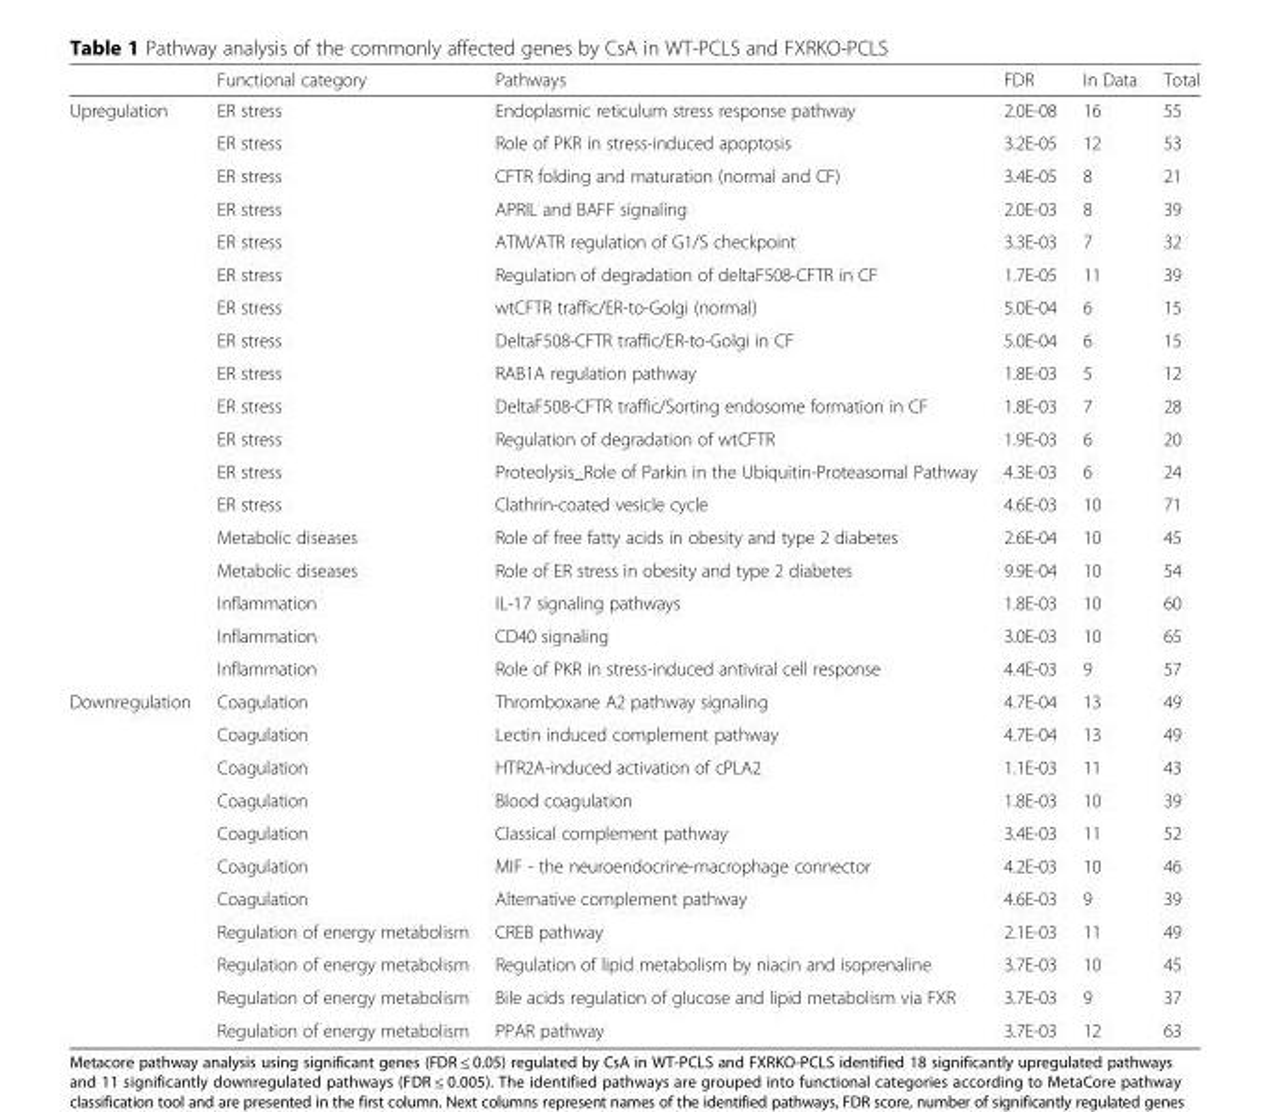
<table><thead><tr><td></td><td>Functional category</td><td>Pathways</td><td>FDR</td><td>In Data</td><td>Total</td></tr></thead><tbody><tr><td rowspan="18">Upregulation</td><td>ER stress</td><td>Endoplasmic reticulum stress response pathway</td><td>2.0E-08</td><td>16</td><td>55</td></tr><tr><td>ER stress</td><td>Role of PKR in stress-induced apoptosis</td><td>3.2E-05</td><td>12</td><td>53</td></tr><tr><td>ER stress</td><td>CFTR folding and maturation (normal and CF)</td><td>3.4E-05</td><td>8</td><td>21</td></tr><tr><td>ER stress</td><td>APRIL and BAFF signaling</td><td>2.0E-03</td><td>8</td><td>39</td></tr><tr><td>ER stress</td><td>ATM/ATR regulation of G1/S checkpoint</td><td>3.3E-03</td><td>7</td><td>32</td></tr><tr><td>ER stress</td><td>Regulation of degradation of deltaF508-CFTR in CF</td><td>1.7E-05</td><td>11</td><td>39</td></tr><tr><td>ER stress</td><td>wtCFTR traffic/ER-to-Golgi (normal)</td><td>5.0E-04</td><td>6</td><td>15</td></tr><tr><td>ER stress</td><td>DeltaF508-CFTR traffic/ER-to-Golgi in CF</td><td>5.0E-04</td><td>6</td><td>15</td></tr><tr><td>ER stress</td><td>RAB1A regulation pathway</td><td>1.8E-03</td><td>5</td><td>12</td></tr><tr><td>ER stress</td><td>DeltaF508-CFTR traffic/Sorting endosome formation in CF</td><td>1.8E-03</td><td>7</td><td>28</td></tr><tr><td>ER stress</td><td>Regulation of degradation of wtCFTR</td><td>1.9E-03</td><td>6</td><td>20</td></tr><tr><td>ER stress</td><td>Proteolysis_Role of Parkin in the Ubiquitin-Proteasomal Pathway</td><td>4.3E-03</td><td>6</td><td>24</td></tr><tr><td>ER stress</td><td>Clathrin-coated vesicle cycle</td><td>4.6E-03</td><td>10</td><td>71</td></tr><tr><td>Metabolic diseases</td><td>Role of free fatty acids in obesity and type 2 diabetes</td><td>2.6E-04</td><td>10</td><td>45</td></tr><tr><td>Metabolic diseases</td><td>Role of ER stress in obesity and type 2 diabetes</td><td>9.9E-04</td><td>10</td><td>54</td></tr><tr><td>Inflammation</td><td>IL-17 signaling pathways</td><td>1.8E-03</td><td>10</td><td>60</td></tr><tr><td>Inflammation</td><td>CD40 signaling</td><td>3.0E-03</td><td>10</td><td>65</td></tr><tr><td>Inflammation</td><td>Role of PKR in stress-induced antiviral cell response</td><td>4.4E-03</td><td>9</td><td>57</td></tr><tr><td rowspan="11">Downregulation</td><td>Coagulation</td><td>Thromboxane A2 pathway signaling</td><td>4.7E-04</td><td>13</td><td>49</td></tr><tr><td>Coagulation</td><td>Lectin induced complement pathway</td><td>4.7E-04</td><td>13</td><td>49</td></tr><tr><td>Coagulation</td><td>HTR2A-induced activation of cPLA2</td><td>1.1E-03</td><td>11</td><td>43</td></tr><tr><td>Coagulation</td><td>Blood coagulation</td><td>1.8E-03</td><td>10</td><td>39</td></tr><tr><td>Coagulation</td><td>Classical complement pathway</td><td>3.4E-03</td><td>11</td><td>52</td></tr><tr><td>Coagulation</td><td>MIF - the neuroendocrine-macrophage connector</td><td>4.2E-03</td><td>10</td><td>46</td></tr><tr><td>Coagulation</td><td>Alternative complement pathway</td><td>4.6E-03</td><td>9</td><td>39</td></tr><tr><td>Regulation of energy metabolism</td><td>CREB pathway</td><td>2.1E-03</td><td>11</td><td>49</td></tr><tr><td>Regulation of energy metabolism</td><td>Regulation of lipid metabolism by niacin and isoprenaline</td><td>3.7E-03</td><td>10</td><td>45</td></tr><tr><td>Regulation of energy metabolism</td><td>Bile acids regulation of glucose and lipid metabolism via FXR</td><td>3.7E-03</td><td>9</td><td>37</td></tr><tr><td>Regulation of energy metabolism</td><td>PPAR pathway</td><td>3.7E-03</td><td>12</td><td>63</td></tr></tbody></table>